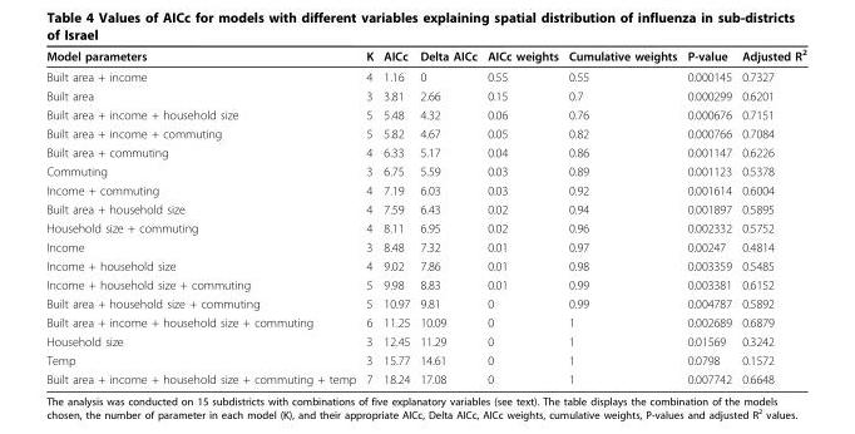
<table><thead><tr><td>Model parameters</td><td>K</td><td>AICc</td><td>Delta AICc</td><td>AICc weights</td><td>Cumulative weights</td><td>P-value</td><td>Adjusted R<sup>2</sup></td></tr></thead><tbody><tr><td>Built area + income</td><td>4</td><td>1.16</td><td>0</td><td>0.55</td><td>0.55</td><td>0.000145</td><td>0.7327</td></tr><tr><td>Built area</td><td>3</td><td>3.81</td><td>2.66</td><td>0.15</td><td>0.7</td><td>0.000299</td><td>0.6201</td></tr><tr><td>Built area + income + household size</td><td>5</td><td>5.48</td><td>4.32</td><td>0.06</td><td>0.76</td><td>0.000676</td><td>0.7151</td></tr><tr><td>Built area + income + commuting</td><td>5</td><td>5.82</td><td>4.67</td><td>0.05</td><td>0.82</td><td>0.000766</td><td>0.7084</td></tr><tr><td>Built area + commuting</td><td>4</td><td>6.33</td><td>5.17</td><td>0.04</td><td>0.86</td><td>0.001147</td><td>0.6226</td></tr><tr><td>Commuting</td><td>3</td><td>6.75</td><td>5.59</td><td>0.03</td><td>0.89</td><td>0.001123</td><td>0.5378</td></tr><tr><td>Income + commuting</td><td>4</td><td>7.19</td><td>6.03</td><td>0.03</td><td>0.92</td><td>0.001614</td><td>0.6004</td></tr><tr><td>Built area + household size</td><td>4</td><td>7.59</td><td>6.43</td><td>0.02</td><td>0.94</td><td>0.001897</td><td>0.5895</td></tr><tr><td>Household size + commuting</td><td>4</td><td>8.11</td><td>6.95</td><td>0.02</td><td>0.96</td><td>0.002332</td><td>0.5752</td></tr><tr><td>Income</td><td>3</td><td>8.48</td><td>7.32</td><td>0.01</td><td>0.97</td><td>0.00247</td><td>0.4814</td></tr><tr><td>Income + household size</td><td>4</td><td>9.02</td><td>7.86</td><td>0.01</td><td>0.98</td><td>0.003359</td><td>0.5485</td></tr><tr><td>Income + household size + commuting</td><td>5</td><td>9.98</td><td>8.83</td><td>0.01</td><td>0.99</td><td>0.003381</td><td>0.6152</td></tr><tr><td>Built area + household size + commuting</td><td>5</td><td>10.97</td><td>9.81</td><td>0</td><td>0.99</td><td>0.004787</td><td>0.5892</td></tr><tr><td>Built area + income + household size + commuting</td><td>6</td><td>11.25</td><td>10.09</td><td>0</td><td>1</td><td>0.002689</td><td>0.6879</td></tr><tr><td>Household size</td><td>3</td><td>12.45</td><td>11.29</td><td>0</td><td>1</td><td>0.01569</td><td>0.3242</td></tr><tr><td>Temp</td><td>3</td><td>15.77</td><td>14.61</td><td>0</td><td>1</td><td>0.0798</td><td>0.1572</td></tr><tr><td>Built area + income + household size + commuting + temp</td><td>7</td><td>18.24</td><td>17.08</td><td>0</td><td>1</td><td>0.007742</td><td>0.6648</td></tr></tbody></table>